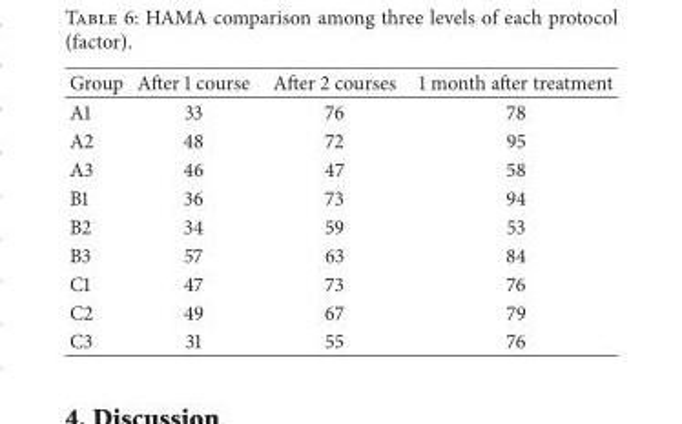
<table><thead><tr><td>Group</td><td>After 1 course</td><td>After 2 courses</td><td>1 month after treatment</td></tr></thead><tbody><tr><td>A1</td><td>33</td><td>76</td><td>78</td></tr><tr><td>A2</td><td>48</td><td>72</td><td>95</td></tr><tr><td>A3</td><td>46</td><td>47</td><td>58</td></tr><tr><td>B1</td><td>36</td><td>73</td><td>94</td></tr><tr><td>B2</td><td>34</td><td>59</td><td>53</td></tr><tr><td>B3</td><td>57</td><td>63</td><td>84</td></tr><tr><td>C1</td><td>47</td><td>73</td><td>76</td></tr><tr><td>C2</td><td>49</td><td>67</td><td>79</td></tr><tr><td>C3</td><td>31</td><td>55</td><td>76</td></tr></tbody></table>